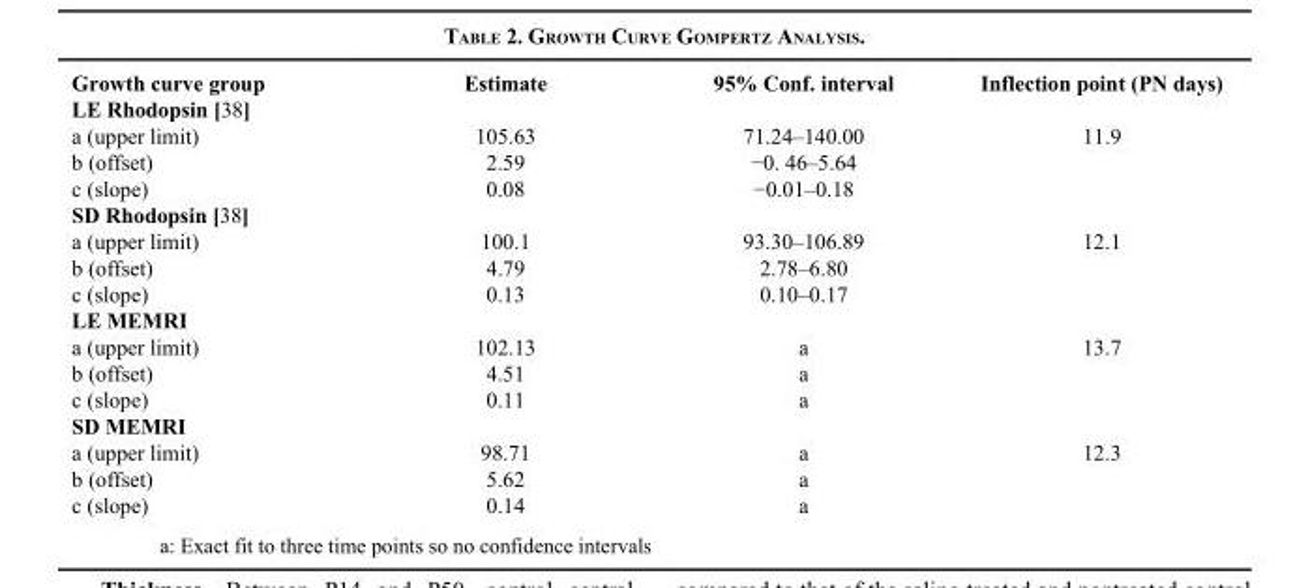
<table><thead><tr><td>Growth curve group</td><td>Estimate</td><td>95% Conf. interval</td><td>Inflection point (PN days)</td></tr></thead><tbody><tr><td colspan="4">LE Rhodopsin [38]</td></tr><tr><td>a (upper limit)</td><td>105.63</td><td>71.24–140.00</td><td>11.9</td></tr><tr><td>b (offset)</td><td>2.59</td><td>−0. 46–5.64</td><td></td></tr><tr><td>c (slope)</td><td>0.08</td><td>−0.01–0.18</td><td></td></tr><tr><td colspan="4">SD Rhodopsin [38]</td></tr><tr><td>a (upper limit)</td><td>100.1</td><td>93.30–106.89</td><td>12.1</td></tr><tr><td>b (offset)</td><td>4.79</td><td>2.78–6.80</td><td></td></tr><tr><td>c (slope)</td><td>0.13</td><td>0.10–0.17</td><td></td></tr><tr><td colspan="4">LE MEMRI</td></tr><tr><td>a (upper limit)</td><td>102.13</td><td>a</td><td>13.7</td></tr><tr><td>b (offset)</td><td>4.51</td><td>a</td><td></td></tr><tr><td>c (slope)</td><td>0.11</td><td>a</td><td></td></tr><tr><td colspan="4">SD MEMRI</td></tr><tr><td>a (upper limit)</td><td>98.71</td><td>a</td><td>12.3</td></tr><tr><td>b (offset)</td><td>5.62</td><td>a</td><td></td></tr><tr><td>c (slope)</td><td>0.14</td><td>a</td><td></td></tr></tbody></table>